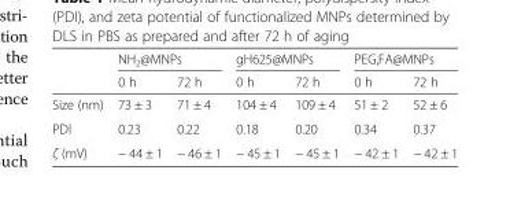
<table><thead><tr><td rowspan="2"></td><td colspan="2">NH<sub>2</sub>@MNPs</td><td colspan="2">gH625@MNPs</td><td colspan="2">PEG,FA@MNPs</td></tr><tr><td>0 h</td><td>72 h</td><td>0 h</td><td>72 h</td><td>0 h</td><td>72 h</td></tr></thead><tbody><tr><td>Size (nm)</td><td>73 ± 3</td><td>71 ± 4</td><td>104 ± 4</td><td>109 ± 4</td><td>51 ± 2</td><td>52 ± 6</td></tr><tr><td>PDI</td><td>0.23</td><td>0.22</td><td>0.18</td><td>0.20</td><td>0.34</td><td>0.37</td></tr><tr><td>ζ (mV)</td><td>− 44 ± 1</td><td>− 46 ± 1</td><td>− 45 ± 1</td><td>− 45 ± 1</td><td>− 42 ± 1</td><td>− 42 ± 1</td></tr></tbody></table>